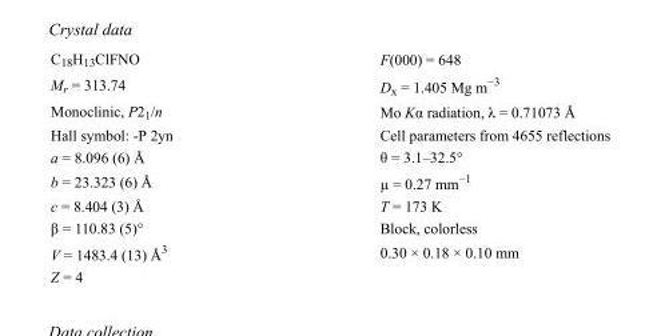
<table><tbody><tr><td>C<sub>18</sub>H<sub>13</sub>ClFNO</td><td>F(000) = 648</td></tr><tr><td>M<sub>r</sub> = 313.74</td><td>D<sub>x</sub> = 1.405 Mg m<sup>−3</sup></td></tr><tr><td>Monoclinic, P2<sub>1</sub>/n</td><td>Mo Kα radiation, λ = 0.71073 Å</td></tr><tr><td>Hall symbol: -P 2yn</td><td>Cell parameters from 4655 reflections</td></tr><tr><td>a = 8.096 (6) Å</td><td>θ = 3.1–32.5°</td></tr><tr><td>b = 23.323 (6) Å</td><td>µ = 0.27 mm<sup>−1</sup></td></tr><tr><td>c = 8.404 (3) Å</td><td>T = 173 K</td></tr><tr><td>β = 110.83 (5)°</td><td>Block, colorless</td></tr><tr><td>V = 1483.4 (13) Å<sup>3</sup></td><td>0.30 × 0.18 × 0.10 mm</td></tr><tr><td>Z = 4</td><td></td></tr></tbody></table>